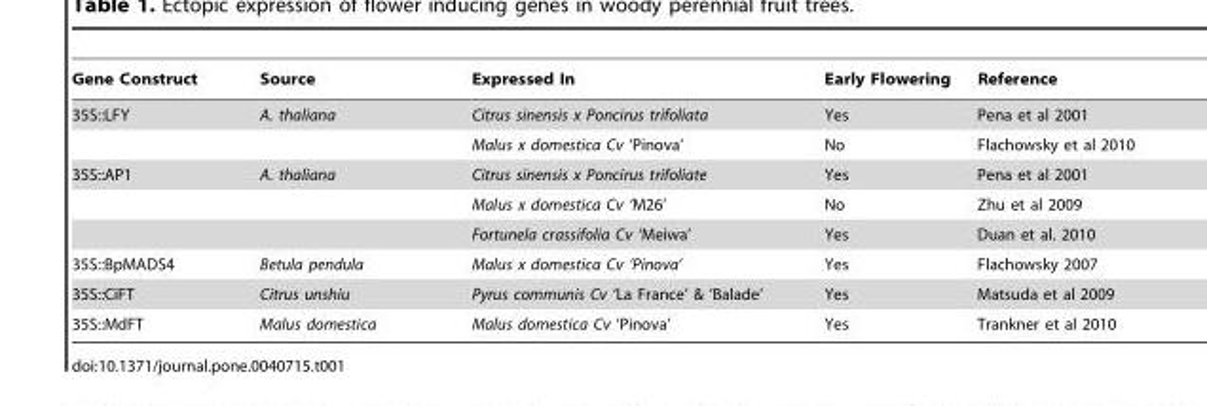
<table><thead><tr><td>Gene Construct</td><td>Source</td><td>Expressed In</td><td>Early Flowering</td><td>Reference</td></tr></thead><tbody><tr><td rowspan="2">35S::LFY</td><td>A. thaliana</td><td>Citrus sinensis x Poncirus trifoliata</td><td>Yes</td><td>Pena et al 2001</td></tr><tr><td></td><td>Malus x domestica Cv ‘Pinova’</td><td>No</td><td>Flachowsky et al 2010</td></tr><tr><td rowspan="3">35S::AP1</td><td>A. thaliana</td><td>Citrus sinensis x Poncirus trifoliate</td><td>Yes</td><td>Pena et al 2001</td></tr><tr><td></td><td>Malus x domestica Cv ‘M26’</td><td>No</td><td>Zhu et al 2009</td></tr><tr><td></td><td>Fortunela crassifolia Cv ‘Meiwa’</td><td>Yes</td><td>Duan et al. 2010</td></tr><tr><td>35S::BpMADS4</td><td>Betula pendula</td><td>Malus x domestica Cv ‘Pinova’</td><td>Yes</td><td>Flachowsky 2007</td></tr><tr><td>35S::CiFT</td><td>Citrus unshiu</td><td>Pyrus communis Cv ‘La France’ &amp; ‘Balade’</td><td>Yes</td><td>Matsuda et al 2009</td></tr><tr><td>35S::MdFT</td><td>Malus domestica</td><td>Malus domestica Cv ‘Pinova’</td><td>Yes</td><td>Trankner et al 2010</td></tr></tbody></table>